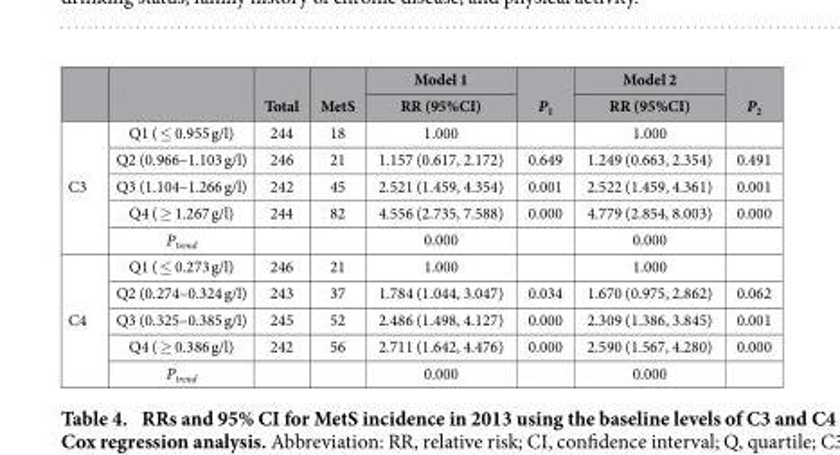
<table><thead><tr><td rowspan="2"></td><td rowspan="2"></td><td rowspan="2">Total</td><td rowspan="2">MetS</td><td rowspan="2">Model 1 RR (95%CI)</td><td rowspan="2">P<sub>1</sub></td><td rowspan="2">Model 2 RR (95%CI)</td><td rowspan="2">P<sub>2</sub></td></tr><tr></tr></thead><tbody><tr><td rowspan="5">C3</td><td>Q1 ( ≤ 0.955 g/l)</td><td>244</td><td>18</td><td>1.000</td><td></td><td>1.000</td><td></td></tr><tr><td>Q2 (0.966–1.103 g/l)</td><td>246</td><td>21</td><td>1.157 (0.617, 2.172)</td><td>0.649</td><td>1.249 (0.663, 2.354)</td><td>0.491</td></tr><tr><td>Q3 (1.104–1.266 g/l)</td><td>242</td><td>45</td><td>2.521 (1.459, 4.354)</td><td>0.001</td><td>2.522 (1.459, 4.361)</td><td>0.001</td></tr><tr><td>Q4 ( ≥ 1.267 g/l)</td><td>244</td><td>82</td><td>4.556 (2.735, 7.588)</td><td>0.000</td><td>4.779 (2.854, 8.003)</td><td>0.000</td></tr><tr><td>P<sub>trend</sub></td><td></td><td></td><td>0.000</td><td></td><td>0.000</td><td></td></tr><tr><td rowspan="5">C4</td><td>Q1 ( ≤ 0.273 g/l)</td><td>246</td><td>21</td><td>1.000</td><td></td><td>1.000</td><td></td></tr><tr><td>Q2 (0.274–0.324 g/l)</td><td>243</td><td>37</td><td>1.784 (1.044, 3.047)</td><td>0.034</td><td>1.670 (0.975, 2.862)</td><td>0.062</td></tr><tr><td>Q3 (0.325–0.385 g/l)</td><td>245</td><td>52</td><td>2.486 (1.498, 4.127)</td><td>0.000</td><td>2.309 (1.386, 3.845)</td><td>0.001</td></tr><tr><td>Q4 ( ≥ 0.386 g/l)</td><td>242</td><td>56</td><td>2.711 (1.642, 4.476)</td><td>0.000</td><td>2.590 (1.567, 4.280)</td><td>0.000</td></tr><tr><td>P<sub>trend</sub></td><td></td><td></td><td>0.000</td><td></td><td>0.000</td><td></td></tr></tbody></table>